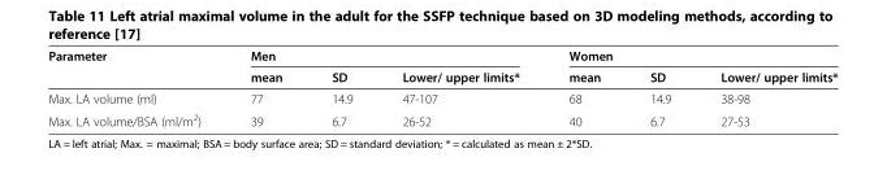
<table><thead><tr><td rowspan="2">Parameter</td><td colspan="3">Men</td><td colspan="3">Women</td></tr><tr><td>mean</td><td>SD</td><td>Lower/ upper limits*</td><td>mean</td><td>SD</td><td>Lower/ upper limits*</td></tr></thead><tbody><tr><td>Max. LA volume (ml)</td><td>77</td><td>14.9</td><td>47-107</td><td>68</td><td>14.9</td><td>38-98</td></tr><tr><td>Max. LA volume/BSA (ml/m<sup>2</sup>)</td><td>39</td><td>6.7</td><td>26-52</td><td>40</td><td>6.7</td><td>27-53</td></tr></tbody></table>